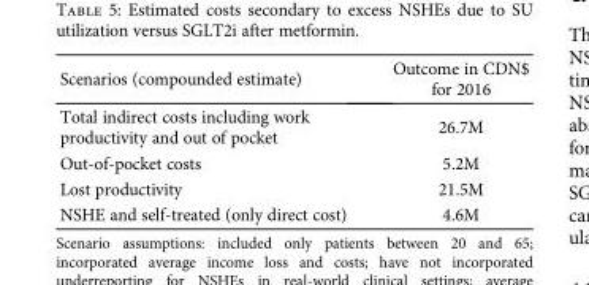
<table><thead><tr><td>Scenarios (compounded estimate)</td><td>Outcome in CDN$ for 2016</td></tr></thead><tbody><tr><td>Total indirect costs including work productivity and out of pocket</td><td>26.7M</td></tr><tr><td>Out-of-pocket costs</td><td>5.2M</td></tr><tr><td>Lost productivity</td><td>21.5M</td></tr><tr><td>NSHE and self-treated (only direct cost)</td><td>4.6M</td></tr></tbody></table>